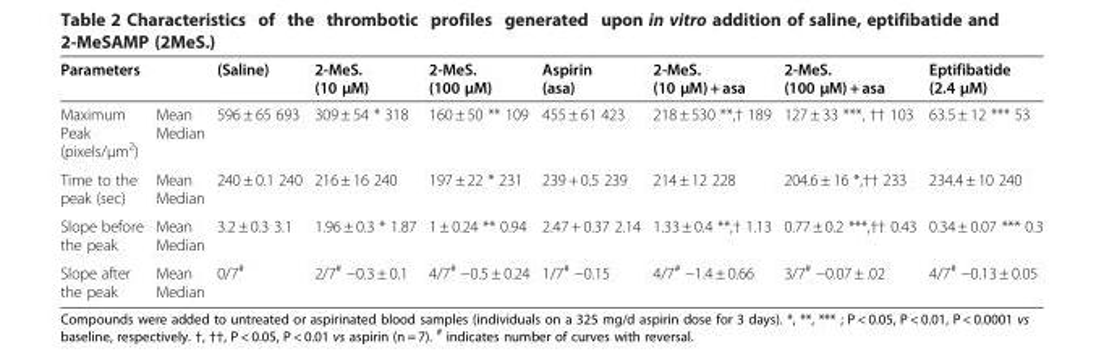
<table><thead><tr><td colspan="2">Parameters</td><td rowspan="2">(Saline) 596 ± 65 693</td><td rowspan="2">2-MeS. (10 μM) 309 ± 54 * 318</td><td rowspan="2">2-MeS. (100 μM) 160 ± 50 ** 109</td><td rowspan="2">Aspirin (asa) 455 ± 61 423</td><td rowspan="2">2-MeS. (10 μM) + asa 218 ± 530 **,† 189</td><td rowspan="2">2-MeS. (100 μM) + asa 127 ± 33 ***, †† 103</td><td rowspan="2">Eptifibatide (2.4 μM) 63.5 ± 12 *** 53</td></tr><tr><td>Maximum Peak (pixels/μm<sup>2</sup>)</td><td>Mean Median</td></tr></thead><tbody><tr><td>Time to the peak (sec)</td><td>Mean Median</td><td>240 ± 0.1 240</td><td>216 ± 16 240</td><td>197 ± 22 * 231</td><td>239 + 0.5 239</td><td>214 ± 12 228</td><td>204.6 ± 16 *,†† 233</td><td>234.4 ± 10 240</td></tr><tr><td>Slope before the peak</td><td>Mean Median</td><td>3.2 ± 0.3 3.1</td><td>1.96 ± 0.3 * 1.87</td><td>1 ± 0.24 ** 0.94</td><td>2.47 + 0.37 2.14</td><td>1.33 ± 0.4 **,† 1.13</td><td>0.77 ± 0.2 ***,†† 0.43</td><td>0.34 ± 0.07 *** 0.3</td></tr><tr><td>Slope after the peak</td><td>Mean Median</td><td>0/7<sup>#</sup></td><td>2/7<sup>#</sup> −0.3 ± 0.1</td><td>4/7<sup>#</sup> −0.5 ± 0.24</td><td>1/7<sup>#</sup> −0.15</td><td>4/7<sup>#</sup> −1.4 ± 0.66</td><td>3/7<sup>#</sup> −0.07 ± .02</td><td>4/7<sup>#</sup> −0.13 ± 0.05</td></tr></tbody></table>